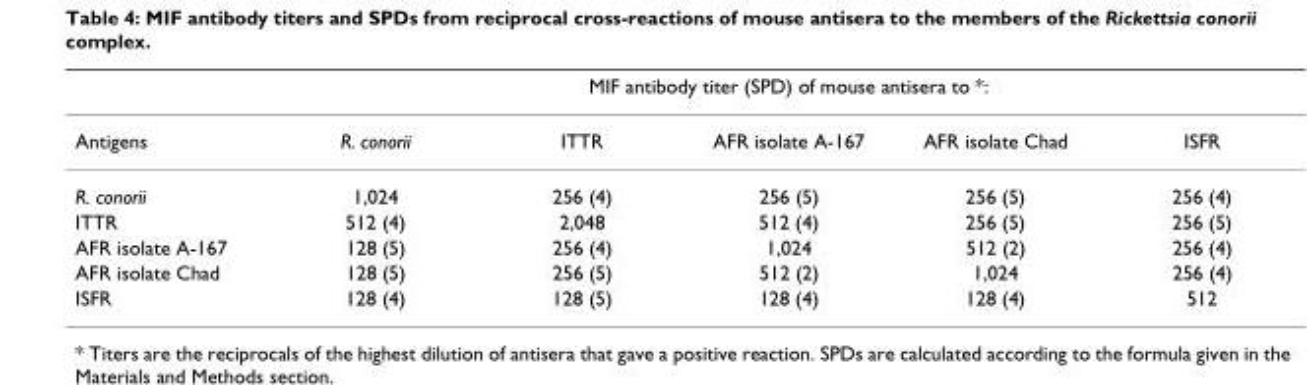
<table><thead><tr><td rowspan="2">Antigens</td><td colspan="5">MIF antibody titer (SPD) of mouse antisera to *:</td></tr><tr><td>R. conorii</td><td>ITTR</td><td>AFR isolate A-167</td><td>AFR isolate Chad</td><td>ISFR</td></tr></thead><tbody><tr><td>R. conorii</td><td>1,024</td><td>256 (4)</td><td>256 (5)</td><td>256 (5)</td><td>256 (4)</td></tr><tr><td>ITTR</td><td>512 (4)</td><td>2,048</td><td>512 (4)</td><td>256 (5)</td><td>256 (5)</td></tr><tr><td>AFR isolate A-167</td><td>128 (5)</td><td>256 (4)</td><td>1,024</td><td>512 (2)</td><td>256 (4)</td></tr><tr><td>AFR isolate Chad</td><td>128 (5)</td><td>256 (5)</td><td>512 (2)</td><td>1,024</td><td>256 (4)</td></tr><tr><td>ISFR</td><td>128 (4)</td><td>128 (5)</td><td>128 (4)</td><td>128 (4)</td><td>512</td></tr></tbody></table>